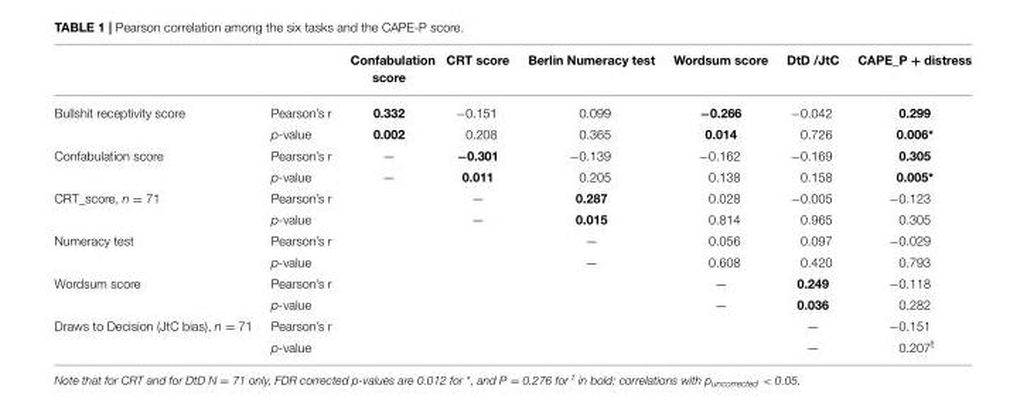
<table><thead><tr><td></td><td></td><td>Confabulation score</td><td>CRT score</td><td>Berlin Numeracy test</td><td>Wordsum score</td><td>DtD /JtC</td><td>CAPE_P + distress</td></tr></thead><tbody><tr><td rowspan="2">Bullshit receptivity score</td><td>Pearson’s r</td><td>0.332</td><td>−0.151</td><td>0.099</td><td>−0.266</td><td>−0.042</td><td>0.299</td></tr><tr><td>p-value</td><td>0.002</td><td>0.208</td><td>0.365</td><td>0.014</td><td>0.726</td><td>0.006*</td></tr><tr><td rowspan="2">Confabulation score</td><td>Pearson’s r</td><td>—</td><td>−0.301</td><td>−0.139</td><td>−0.162</td><td>−0.169</td><td>0.305</td></tr><tr><td>p-value</td><td>—</td><td>0.011</td><td>0.205</td><td>0.138</td><td>0.158</td><td>0.005*</td></tr><tr><td rowspan="2">CRT_score, n = 71</td><td>Pearson’s r</td><td></td><td>—</td><td>0.287</td><td>0.028</td><td>−0.005</td><td>−0.123</td></tr><tr><td>p-value</td><td></td><td>—</td><td>0.015</td><td>0.814</td><td>0.965</td><td>0.305</td></tr><tr><td rowspan="2">Numeracy test</td><td>Pearson’s r</td><td></td><td></td><td>—</td><td>0.056</td><td>0.097</td><td>−0.029</td></tr><tr><td>p-value</td><td></td><td></td><td>—</td><td>0.608</td><td>0.420</td><td>0.793</td></tr><tr><td rowspan="2">Wordsum score</td><td>Pearson’s r</td><td></td><td></td><td></td><td>—</td><td>0.249</td><td>−0.118</td></tr><tr><td>p-value</td><td></td><td></td><td></td><td>—</td><td>0.036</td><td>0.282</td></tr><tr><td rowspan="2">Draws to Decision (JtC bias), n = 71</td><td>Pearson’s r</td><td></td><td></td><td></td><td></td><td>—</td><td>−0.151</td></tr><tr><td>p-value</td><td></td><td></td><td></td><td></td><td>—</td><td>0.207<sup>t</sup></td></tr></tbody></table>